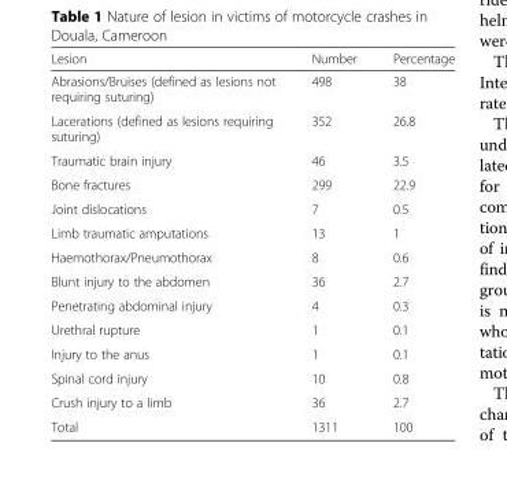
<table><thead><tr><td>Lesion</td><td>Number</td><td>Percentage</td></tr></thead><tbody><tr><td>Abrasions/Bruises (defined as lesions not requiring suturing)</td><td>498</td><td>38</td></tr><tr><td>Lacerations (defined as lesions requiring suturing)</td><td>352</td><td>26.8</td></tr><tr><td>Traumatic brain injury</td><td>46</td><td>3.5</td></tr><tr><td>Bone fractures</td><td>299</td><td>22.9</td></tr><tr><td>Joint dislocations</td><td>7</td><td>0.5</td></tr><tr><td>Limb traumatic amputations</td><td>13</td><td>1</td></tr><tr><td>Haemothorax/Pneumothorax</td><td>8</td><td>0.6</td></tr><tr><td>Blunt injury to the abdomen</td><td>36</td><td>2.7</td></tr><tr><td>Penetrating abdominal injury</td><td>4</td><td>0.3</td></tr><tr><td>Urethral rupture</td><td>1</td><td>0.1</td></tr><tr><td>Injury to the anus</td><td>1</td><td>0.1</td></tr><tr><td>Spinal cord injury</td><td>10</td><td>0.8</td></tr><tr><td>Crush injury to a limb</td><td>36</td><td>2.7</td></tr><tr><td>Total</td><td>1311</td><td>100</td></tr></tbody></table>